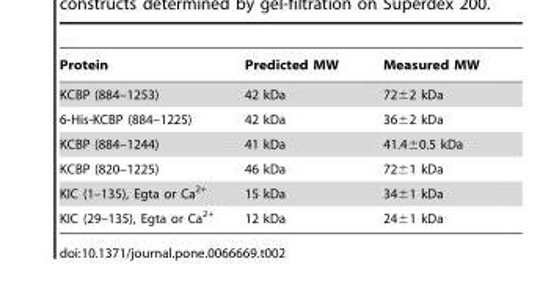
<table><thead><tr><td>Protein</td><td>Predicted MW</td><td>Measured MW</td></tr></thead><tbody><tr><td>KCBP (884–1253)</td><td>42 kDa</td><td>72±2 kDa</td></tr><tr><td>6-His-KCBP (884–1225)</td><td>42 kDa</td><td>36±2 kDa</td></tr><tr><td>KCBP (884–1244)</td><td>41 kDa</td><td>41.4±0.5 kDa</td></tr><tr><td>KCBP (820–1225)</td><td>46 kDa</td><td>72±1 kDa</td></tr><tr><td>KIC (1–135), Egta or Ca<sup>2+</sup></td><td>15 kDa</td><td>34±1 kDa</td></tr><tr><td>KIC (29–135), Egta or Ca<sup>2+</sup></td><td>12 kDa</td><td>24±1 kDa</td></tr></tbody></table>